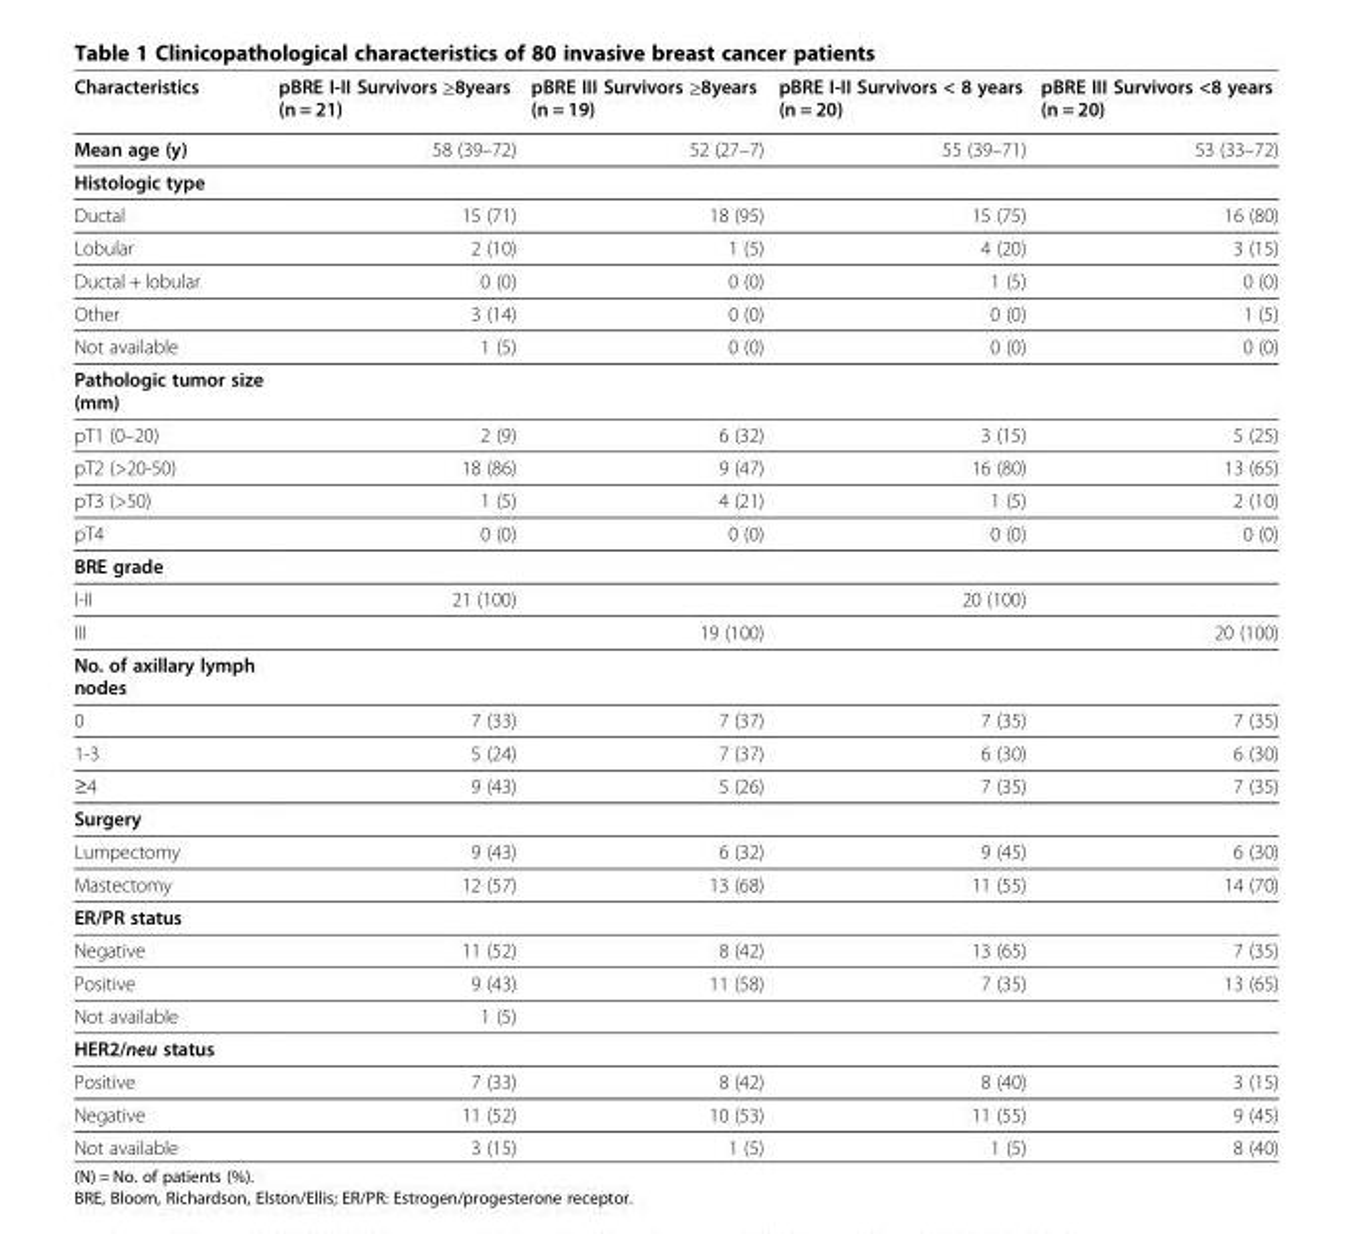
<table><thead><tr><td>Characteristics</td><td>pBRE I-II Survivors ≥8years (n = 21)</td><td>pBRE III Survivors ≥8years (n = 19)</td><td>pBRE I-II Survivors &lt; 8 years (n = 20)</td><td>pBRE III Survivors &lt;8 years (n = 20)</td></tr></thead><tbody><tr><td>Mean age (y)</td><td>58 (39–72)</td><td>52 (27–7)</td><td>55 (39–71)</td><td>53 (33–72)</td></tr><tr><td colspan="5">Histologic type</td></tr><tr><td>Ductal</td><td>15 (71)</td><td>18 (95)</td><td>15 (75)</td><td>16 (80)</td></tr><tr><td>Lobular</td><td>2 (10)</td><td>1 (5)</td><td>4 (20)</td><td>3 (15)</td></tr><tr><td>Ductal + lobular</td><td>0 (0)</td><td>0 (0)</td><td>1 (5)</td><td>0 (0)</td></tr><tr><td>Other</td><td>3 (14)</td><td>0 (0)</td><td>0 (0)</td><td>1 (5)</td></tr><tr><td>Not available</td><td>1 (5)</td><td>0 (0)</td><td>0 (0)</td><td>0 (0)</td></tr><tr><td colspan="5">Pathologic tumor size (mm)</td></tr><tr><td>pT1 (0–20)</td><td>2 (9)</td><td>6 (32)</td><td>3 (15)</td><td>5 (25)</td></tr><tr><td>pT2 (&gt;20-50)</td><td>18 (86)</td><td>9 (47)</td><td>16 (80)</td><td>13 (65)</td></tr><tr><td>pT3 (&gt;50)</td><td>1 (5)</td><td>4 (21)</td><td>1 (5)</td><td>2 (10)</td></tr><tr><td>pT4</td><td>0 (0)</td><td>0 (0)</td><td>0 (0)</td><td>0 (0)</td></tr><tr><td colspan="5">BRE grade</td></tr><tr><td>I-II</td><td>21 (100)</td><td></td><td>20 (100)</td><td></td></tr><tr><td>III</td><td></td><td>19 (100)</td><td></td><td>20 (100)</td></tr><tr><td colspan="5">No. of axillary lymph nodes</td></tr><tr><td>0</td><td>7 (33)</td><td>7 (37)</td><td>7 (35)</td><td>7 (35)</td></tr><tr><td>1-3</td><td>5 (24)</td><td>7 (37)</td><td>6 (30)</td><td>6 (30)</td></tr><tr><td>≥4</td><td>9 (43)</td><td>5 (26)</td><td>7 (35)</td><td>7 (35)</td></tr><tr><td colspan="5">Surgery</td></tr><tr><td>Lumpectomy</td><td>9 (43)</td><td>6 (32)</td><td>9 (45)</td><td>6 (30)</td></tr><tr><td>Mastectomy</td><td>12 (57)</td><td>13 (68)</td><td>11 (55)</td><td>14 (70)</td></tr><tr><td colspan="5">ER/PR status</td></tr><tr><td>Negative</td><td>11 (52)</td><td>8 (42)</td><td>13 (65)</td><td>7 (35)</td></tr><tr><td>Positive</td><td>9 (43)</td><td>11 (58)</td><td>7 (35)</td><td>13 (65)</td></tr><tr><td>Not available</td><td>1 (5)</td><td></td><td></td><td></td></tr><tr><td colspan="5">HER2/neu status</td></tr><tr><td>Positive</td><td>7 (33)</td><td>8 (42)</td><td>8 (40)</td><td>3 (15)</td></tr><tr><td>Negative</td><td>11 (52)</td><td>10 (53)</td><td>11 (55)</td><td>9 (45)</td></tr><tr><td>Not available</td><td>3 (15)</td><td>1 (5)</td><td>1 (5)</td><td>8 (40)</td></tr></tbody></table>